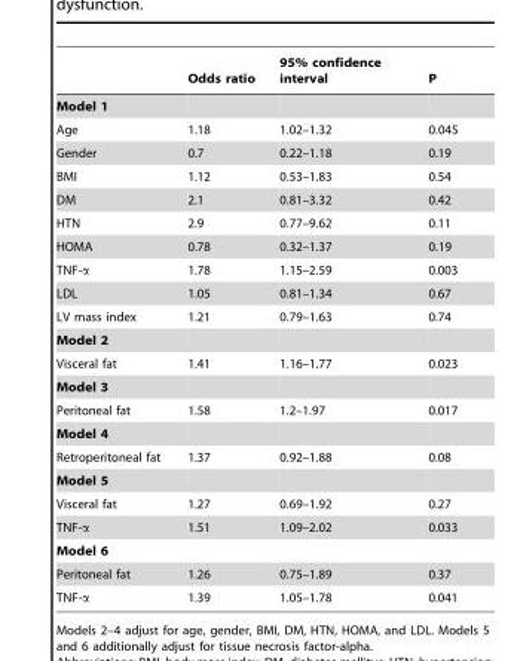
<table><thead><tr><td></td><td>Odds ratio</td><td>95% confidence interval</td><td>P</td></tr></thead><tbody><tr><td colspan="4">Model 1</td></tr><tr><td>Age</td><td>1.18</td><td>1.02–1.32</td><td>0.045</td></tr><tr><td>Gender</td><td>0.7</td><td>0.22–1.18</td><td>0.19</td></tr><tr><td>BMI</td><td>1.12</td><td>0.53–1.83</td><td>0.54</td></tr><tr><td>DM</td><td>2.1</td><td>0.81–3.32</td><td>0.42</td></tr><tr><td>HTN</td><td>2.9</td><td>0.77–9.62</td><td>0.11</td></tr><tr><td>HOMA</td><td>0.78</td><td>0.32–1.37</td><td>0.19</td></tr><tr><td>TNF-α</td><td>1.78</td><td>1.15–2.59</td><td>0.003</td></tr><tr><td>LDL</td><td>1.05</td><td>0.81–1.34</td><td>0.67</td></tr><tr><td>LV mass index</td><td>1.21</td><td>0.79–1.63</td><td>0.74</td></tr><tr><td colspan="4">Model 2</td></tr><tr><td>Visceral fat</td><td>1.41</td><td>1.16–1.77</td><td>0.023</td></tr><tr><td colspan="4">Model 3</td></tr><tr><td>Peritoneal fat</td><td>1.58</td><td>1.2–1.97</td><td>0.017</td></tr><tr><td colspan="4">Model 4</td></tr><tr><td>Retroperitoneal fat</td><td>1.37</td><td>0.92–1.88</td><td>0.08</td></tr><tr><td colspan="4">Model 5</td></tr><tr><td>Visceral fat</td><td>1.27</td><td>0.69–1.92</td><td>0.27</td></tr><tr><td>TNF-α</td><td>1.51</td><td>1.09–2.02</td><td>0.033</td></tr><tr><td colspan="4">Model 6</td></tr><tr><td>Peritoneal fat</td><td>1.26</td><td>0.75–1.89</td><td>0.37</td></tr><tr><td>TNF-α</td><td>1.39</td><td>1.05–1.78</td><td>0.041</td></tr></tbody></table>